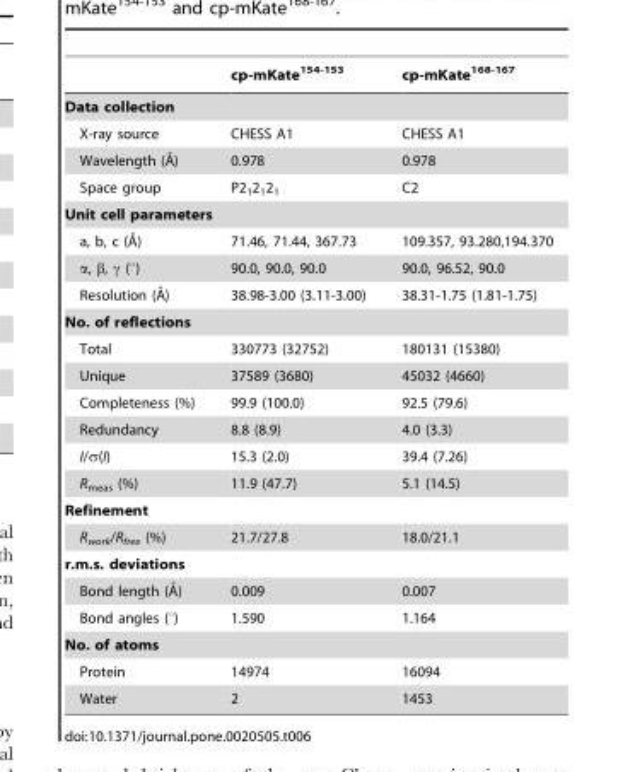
<table><thead><tr><td></td><td>cp-mKate<sup>154-153</sup></td><td>cp-mKate<sup>168-167</sup></td></tr></thead><tbody><tr><td colspan="3">Data collection</td></tr><tr><td>X-ray source</td><td>CHESS A1</td><td>CHESS A1</td></tr><tr><td>Wavelength (A˚)</td><td>0.978</td><td>0.978</td></tr><tr><td>Space group</td><td>P2<sub>1</sub>2<sub>1</sub>2<sub>1</sub></td><td>C2</td></tr><tr><td colspan="3">Unit cell parameters</td></tr><tr><td>a, b, c (A˚)</td><td>71.46, 71.44, 367.73</td><td>109.357, 93.280,194.370</td></tr><tr><td>α, β, γ (°)</td><td>90.0, 90.0, 90.0</td><td>90.0, 96.52, 90.0</td></tr><tr><td>Resolution (A˚)</td><td>38.98-3.00 (3.11-3.00)</td><td>38.31-1.75 (1.81-1.75)</td></tr><tr><td colspan="3">No. of reflections</td></tr><tr><td>Total</td><td>330773 (32752)</td><td>180131 (15380)</td></tr><tr><td>Unique</td><td>37589 (3680)</td><td>45032 (4660)</td></tr><tr><td>Completeness (%)</td><td>99.9 (100.0)</td><td>92.5 (79.6)</td></tr><tr><td>Redundancy</td><td>8.8 (8.9)</td><td>4.0 (3.3)</td></tr><tr><td>I/σ(I)</td><td>15.3 (2.0)</td><td>39.4 (7.26)</td></tr><tr><td>R<sub>meas</sub> (%)</td><td>11.9 (47.7)</td><td>5.1 (14.5)</td></tr><tr><td colspan="3">Refinement</td></tr><tr><td>R<sub>work</sub>/R<sub>free</sub> (%)</td><td>21.7/27.8</td><td>18.0/21.1</td></tr><tr><td colspan="3">r.m.s. deviations</td></tr><tr><td>Bond length (A˚)</td><td>0.009</td><td>0.007</td></tr><tr><td>Bond angles (°)</td><td>1.590</td><td>1.164</td></tr><tr><td colspan="3">No. of atoms</td></tr><tr><td>Protein</td><td>14974</td><td>16094</td></tr><tr><td>Water</td><td>2</td><td>1453</td></tr></tbody></table>